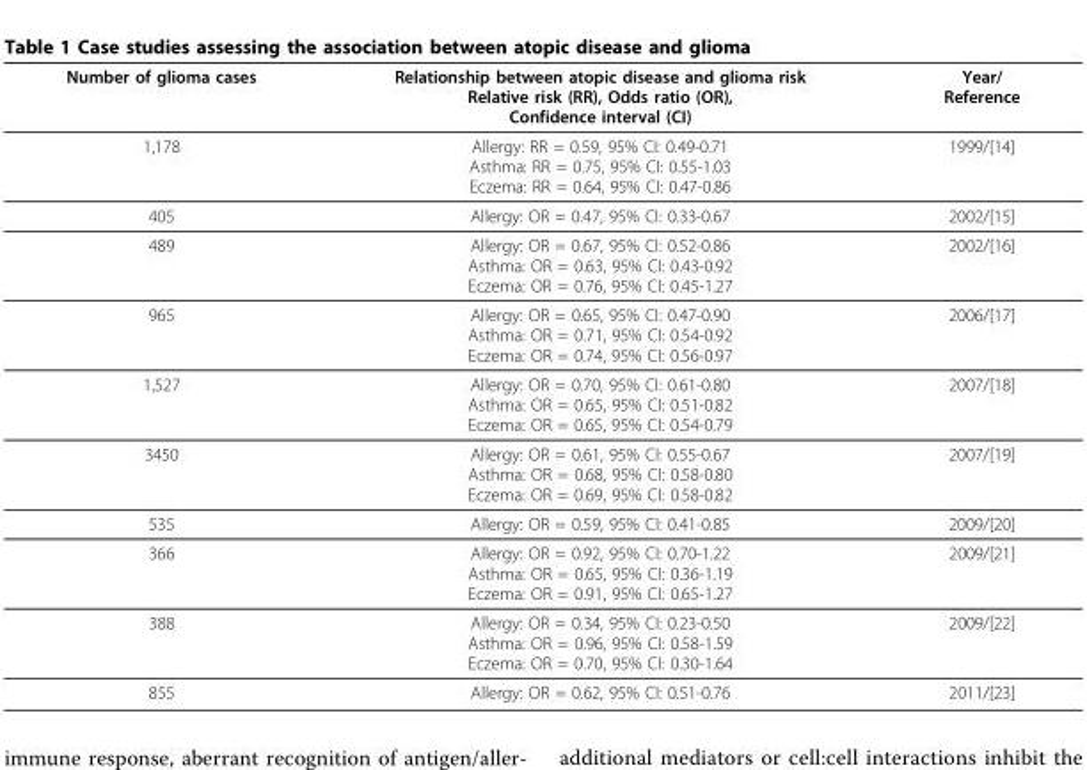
<table><thead><tr><td>Number of glioma cases</td><td>Relationship between atopic disease and glioma risk Relative risk (RR), Odds ratio (OR), Confidence interval (CI)</td><td>Year/ Reference</td></tr></thead><tbody><tr><td>1,178</td><td>Allergy: RR = 0.59, 95% CI: 0.49-0.71 Asthma: RR = 0.75, 95% CI: 0.55-1.03 Eczema: RR = 0.64, 95% CI: 0.47-0.86</td><td>1999/[14]</td></tr><tr><td>405</td><td>Allergy: OR = 0.47, 95% CI: 0.33-0.67</td><td>2002/[15]</td></tr><tr><td>489</td><td>Allergy: OR = 0.67, 95% CI: 0.52-0.86 Asthma: OR = 0.63, 95% CI: 0.43-0.92 Eczema: OR = 0.76, 95% CI: 0.45-1.27</td><td>2002/[16]</td></tr><tr><td>965</td><td>Allergy: OR = 0.65, 95% CI: 0.47-0.90 Asthma: OR = 0.71, 95% CI: 0.54-0.92 Eczema: OR = 0.74, 95% CI: 0.56-0.97</td><td>2006/[17]</td></tr><tr><td>1,527</td><td>Allergy: OR = 0.70, 95% CI: 0.61-0.80 Asthma: OR = 0.65, 95% CI: 0.51-0.82 Eczema: OR = 0.65, 95% CI: 0.54-0.79</td><td>2007/[18]</td></tr><tr><td>3450</td><td>Allergy: OR = 0.61, 95% CI: 0.55-0.67 Asthma: OR = 0.68, 95% CI: 0.58-0.80 Eczema: OR = 0.69, 95% CI: 0.58-0.82</td><td>2007/[19]</td></tr><tr><td>535</td><td>Allergy: OR = 0.59, 95% CI: 0.41-0.85</td><td>2009/[20]</td></tr><tr><td>366</td><td>Allergy: OR = 0.92, 95% CI: 0.70-1.22 Asthma: OR = 0.65, 95% CI: 0.36-1.19 Eczema: OR = 0.91, 95% CI: 0.65-1.27</td><td>2009/[21]</td></tr><tr><td>388</td><td>Allergy: OR = 0.34, 95% CI: 0.23-0.50 Asthma: OR = 0.96, 95% CI: 0.58-1.59 Eczema: OR = 0.70, 95% CI: 0.30-1.64</td><td>2009/[22]</td></tr><tr><td>855</td><td>Allergy: OR = 0.62, 95% CI: 0.51-0.76</td><td>2011/[23]</td></tr></tbody></table>